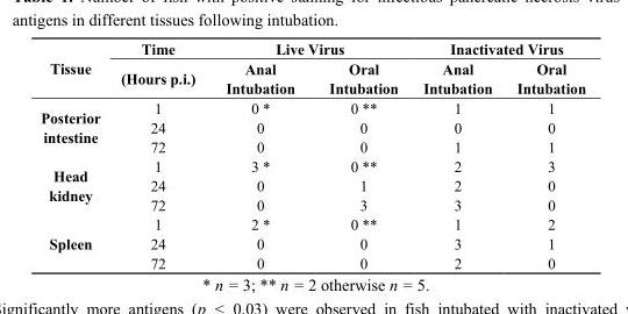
<table><thead><tr><td rowspan="2">Tissue</td><td rowspan="2">Time (Hours p.i.)</td><td colspan="2">Live Virus</td><td colspan="2">Inactivated Virus</td></tr><tr><td>Anal Intubation</td><td>Oral Intubation</td><td>Anal Intubation</td><td>Oral Intubation</td></tr></thead><tbody><tr><td rowspan="3">Posterior intestine</td><td>1</td><td>0 *</td><td>0 **</td><td>1</td><td>1</td></tr><tr><td>24</td><td>0</td><td>0</td><td>0</td><td>0</td></tr><tr><td>72</td><td>0</td><td>0</td><td>1</td><td>1</td></tr><tr><td rowspan="3">Head kidney</td><td>1</td><td>3 *</td><td>0 **</td><td>2</td><td>3</td></tr><tr><td>24</td><td>0</td><td>1</td><td>2</td><td>0</td></tr><tr><td>72</td><td>0</td><td>3</td><td>3</td><td>0</td></tr><tr><td rowspan="3">Spleen</td><td>1</td><td>2 *</td><td>0 **</td><td>1</td><td>2</td></tr><tr><td>24</td><td>0</td><td>0</td><td>3</td><td>1</td></tr><tr><td>72</td><td>0</td><td>0</td><td>2</td><td>0</td></tr></tbody></table>